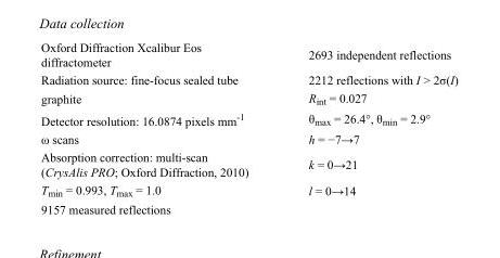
<table><tbody><tr><td>Oxford Diffraction Xcalibur Eos diffractometer</td><td>2693 independent reflections</td></tr><tr><td>Radiation source: fine-focus sealed tube</td><td>2212 reflections with I &gt; 2σ(I)</td></tr><tr><td>graphite</td><td>R<sub>int</sub> = 0.027</td></tr><tr><td>Detector resolution: 16.0874 pixels mm<sup>-1</sup></td><td>θ<sub>max</sub> = 26.4°, θ<sub>min</sub> = 2.9°</td></tr><tr><td>ω scans</td><td>h = −7→7</td></tr><tr><td>Absorption correction: multi-scan (CrysAlis PRO; Oxford Diffraction, 2010)</td><td>k = 0→21</td></tr><tr><td>T<sub>min</sub> = 0.993, T<sub>max</sub> = 1.0</td><td>l = 0→14</td></tr><tr><td>9157 measured reflections</td><td></td></tr></tbody></table>